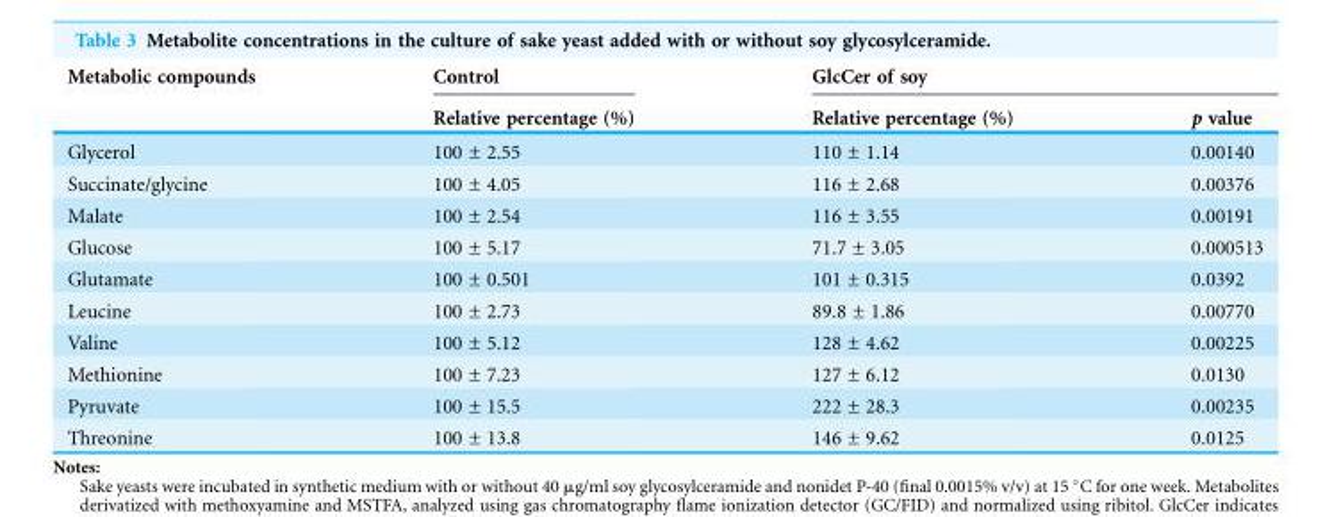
<table><thead><tr><td rowspan="2">Metabolic compounds</td><td rowspan="2">Control Relative percentage (%)</td><td colspan="2">GlcCer of soy</td></tr><tr><td>Relative percentage (%)</td><td>p value</td></tr></thead><tbody><tr><td>Glycerol</td><td>100 ± 2.55</td><td>110 ± 1.14</td><td>0.00140</td></tr><tr><td>Succinate/glycine</td><td>100 ± 4.05</td><td>116 ± 2.68</td><td>0.00376</td></tr><tr><td>Malate</td><td>100 ± 2.54</td><td>116 ± 3.55</td><td>0.00191</td></tr><tr><td>Glucose</td><td>100 ± 5.17</td><td>71.7 ± 3.05</td><td>0.000513</td></tr><tr><td>Glutamate</td><td>100 ± 0.501</td><td>101 ± 0.315</td><td>0.0392</td></tr><tr><td>Leucine</td><td>100 ± 2.73</td><td>89.8 ± 1.86</td><td>0.00770</td></tr><tr><td>Valine</td><td>100 ± 5.12</td><td>128 ± 4.62</td><td>0.00225</td></tr><tr><td>Methionine</td><td>100 ± 7.23</td><td>127 ± 6.12</td><td>0.0130</td></tr><tr><td>Pyruvate</td><td>100 ± 15.5</td><td>222 ± 28.3</td><td>0.00235</td></tr><tr><td>Threonine</td><td>100 ± 13.8</td><td>146 ± 9.62</td><td>0.0125</td></tr></tbody></table>